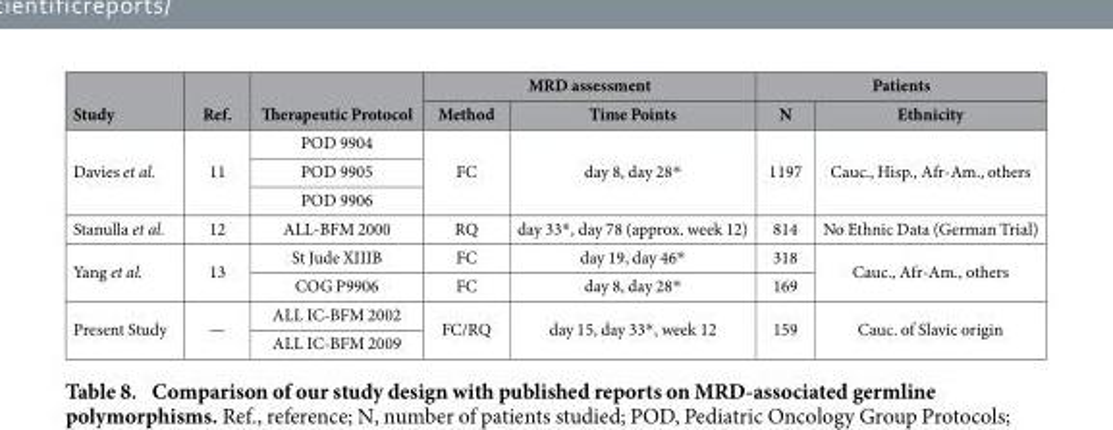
<table><thead><tr><td rowspan="2">Study</td><td rowspan="2">Ref.</td><td rowspan="2">Therapeutic Protocol</td><td colspan="2">MRD assessment</td><td colspan="2">Patients</td></tr><tr><td>Method</td><td>Time Points</td><td>N</td><td>Ethnicity</td></tr></thead><tbody><tr><td rowspan="3">Davies et al.</td><td rowspan="3">11</td><td>POD 9904</td><td rowspan="3">FC</td><td rowspan="3">day 8, day 28*</td><td rowspan="3">1197</td><td rowspan="3">Cauc., Hisp., Afr-Am., others</td></tr><tr><td>POD 9905</td></tr><tr><td>POD 9906</td></tr><tr><td>Stanulla et al.</td><td>12</td><td>ALL-BFM 2000</td><td>RQ</td><td>day 33* , day 78 (approx. week 12)</td><td>814</td><td>No Ethnic Data (German Trial)</td></tr><tr><td rowspan="2">Yang et al.</td><td rowspan="2">13</td><td>St Jude XIIIB</td><td>FC</td><td>day 19, day 46*</td><td>318</td><td rowspan="2">Cauc., Afr-Am., others</td></tr><tr><td>COG P9906</td><td>FC</td><td>day 8, day 28*</td><td>169</td></tr><tr><td rowspan="2">Present Study</td><td rowspan="2">—</td><td>ALL IC-BFM 2002</td><td rowspan="2">FC/RQ</td><td rowspan="2">day 15, day 33* , week 12</td><td rowspan="2">159</td><td rowspan="2">Cauc. of Slavic origin</td></tr><tr><td>ALL IC-BFM 2009</td></tr></tbody></table>